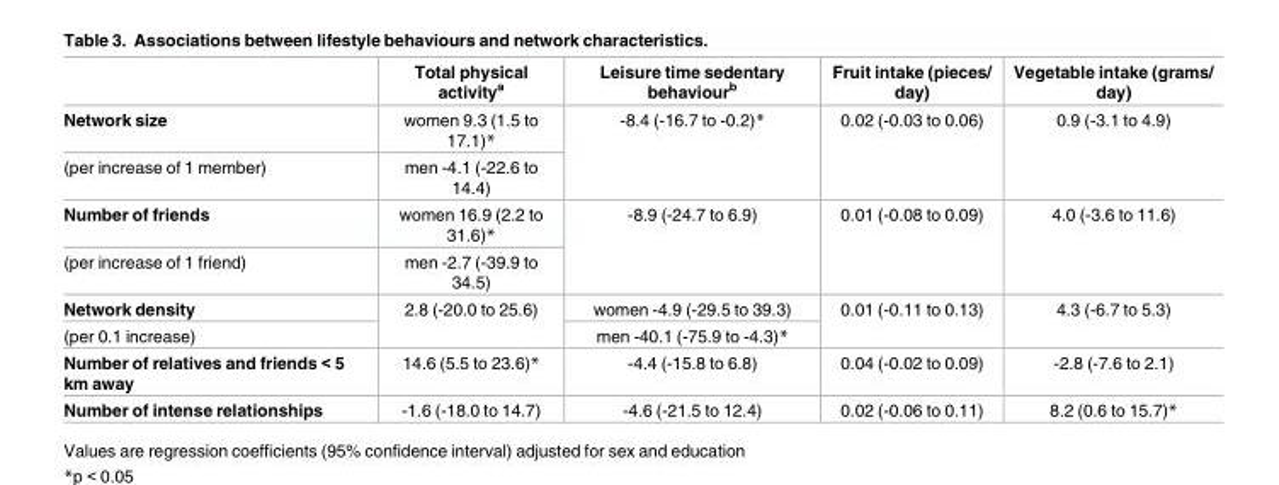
<table><thead><tr><td></td><td>Total physical activity<sup>a</sup></td><td>Leisure time sedentary behaviour<sup>b</sup></td><td>Fruit intake (pieces/ day)</td><td>Vegetable intake (grams/ day)</td></tr></thead><tbody><tr><td>Network size</td><td>women 9.3 (1.5 to 17.1)*</td><td rowspan="2">-8.4 (-16.7 to -0.2)*</td><td rowspan="2">0.02 (-0.03 to 0.06)</td><td rowspan="2">0.9 (-3.1 to 4.9)</td></tr><tr><td>(per increase of 1 member)</td><td>men -4.1 (-22.6 to 14.4)</td></tr><tr><td>Number of friends</td><td>women 16.9 (2.2 to 31.6)*</td><td rowspan="2">-8.9 (-24.7 to 6.9)</td><td rowspan="2">0.01 (-0.08 to 0.09)</td><td rowspan="2">4.0 (-3.6 to 11.6)</td></tr><tr><td>(per increase of 1 friend)</td><td>men -2.7 (-39.9 to 34.5)</td></tr><tr><td>Network density</td><td rowspan="2">2.8 (-20.0 to 25.6)</td><td>women -4.9 (-29.5 to 39.3)</td><td rowspan="2">0.01 (-0.11 to 0.13)</td><td rowspan="2">4.3 (-6.7 to 5.3)</td></tr><tr><td>(per 0.1 increase)</td><td>men -40.1 (-75.9 to -4.3)*</td></tr><tr><td>Number of relatives and friends &lt; 5 km away</td><td>14.6 (5.5 to 23.6)*</td><td>-4.4 (-15.8 to 6.8)</td><td>0.04 (-0.02 to 0.09)</td><td>-2.8 (-7.6 to 2.1)</td></tr><tr><td>Number of intense relationships</td><td>-1.6 (-18.0 to 14.7)</td><td>-4.6 (-21.5 to 12.4)</td><td>0.02 (-0.06 to 0.11)</td><td>8.2 (0.6 to 15.7)*</td></tr></tbody></table>